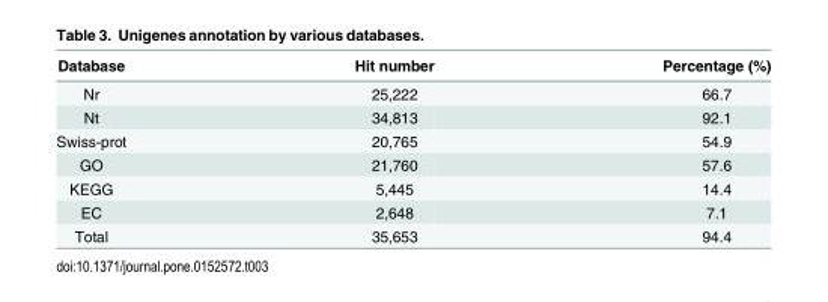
<table><thead><tr><td>Database</td><td>Hit number</td><td>Percentage (%)</td></tr></thead><tbody><tr><td>Nr</td><td>25,222</td><td>66.7</td></tr><tr><td>Nt</td><td>34,813</td><td>92.1</td></tr><tr><td>Swiss-prot</td><td>20,765</td><td>54.9</td></tr><tr><td>GO</td><td>21,760</td><td>57.6</td></tr><tr><td>KEGG</td><td>5,445</td><td>14.4</td></tr><tr><td>EC</td><td>2,648</td><td>7.1</td></tr><tr><td>Total</td><td>35,653</td><td>94.4</td></tr></tbody></table>